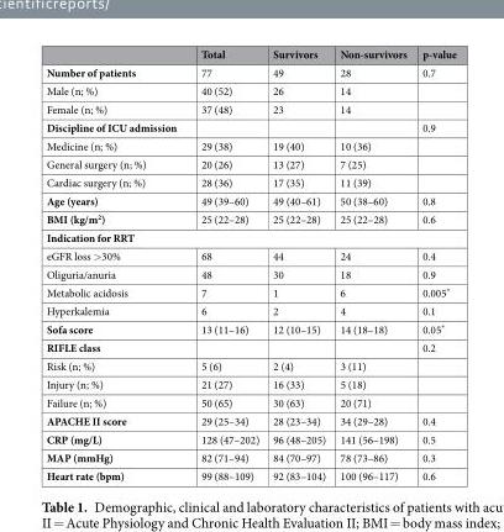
<table><thead><tr><td></td><td>Total</td><td>Survivors</td><td>Non-survivors</td><td>p-value</td></tr></thead><tbody><tr><td>Number of patients</td><td>77</td><td>49</td><td>28</td><td>0.7</td></tr><tr><td>Male (n; %)</td><td>40 (52)</td><td>26</td><td>14</td><td></td></tr><tr><td>Female (n; %)</td><td>37 (48)</td><td>23</td><td>14</td><td></td></tr><tr><td>Discipline of ICU admission</td><td></td><td></td><td></td><td>0.9</td></tr><tr><td>Medicine (n; %)</td><td>29 (38)</td><td>19 (40)</td><td>10 (36)</td><td></td></tr><tr><td>General surgery (n; %)</td><td>20 (26)</td><td>13 (27)</td><td>7 (25)</td><td></td></tr><tr><td>Cardiac surgery (n; %)</td><td>28 (36)</td><td>17 (35)</td><td>11 (39)</td><td></td></tr><tr><td>Age (years)</td><td>49 (39–60)</td><td>49 (40–61)</td><td>50 (38–60)</td><td>0.8</td></tr><tr><td>BMI (kg/m<sup>2</sup>)</td><td>25 (22–28)</td><td>25 (22–28)</td><td>25 (22–28)</td><td>0.6</td></tr><tr><td colspan="5">Indication for RRT</td></tr><tr><td>eGFR loss &gt;30%</td><td>68</td><td>44</td><td>24</td><td>0.4</td></tr><tr><td>Oliguria/anuria</td><td>48</td><td>30</td><td>18</td><td>0.9</td></tr><tr><td>Metabolic acidosis</td><td>7</td><td>1</td><td>6</td><td>0.005*</td></tr><tr><td>Hyperkalemia</td><td>6</td><td>2</td><td>4</td><td>0.1</td></tr><tr><td>Sofa score</td><td>13 (11–16)</td><td>12 (10–15)</td><td>14 (18–18)</td><td>0.05*</td></tr><tr><td>RIFLE class</td><td></td><td></td><td></td><td>0.2</td></tr><tr><td>Risk (n; %)</td><td>5 (6)</td><td>2 (4)</td><td>3 (11)</td><td></td></tr><tr><td>Injury (n; %)</td><td>21 (27)</td><td>16 (33)</td><td>5 (18)</td><td></td></tr><tr><td>Failure (n; %)</td><td>50 (65)</td><td>30 (63)</td><td>20 (71)</td><td></td></tr><tr><td>APACHE II score</td><td>29 (25–34)</td><td>28 (23–34)</td><td>34 (29–28)</td><td>0.4</td></tr><tr><td>CRP (mg/L)</td><td>128 (47–202)</td><td>96 (48–205)</td><td>141 (56–198)</td><td>0.5</td></tr><tr><td>MAP (mmHg)</td><td>82 (71–94)</td><td>84 (70–97)</td><td>78 (73–86)</td><td>0.3</td></tr><tr><td>Heart rate (bpm)</td><td>99 (88–109)</td><td>92 (83–104)</td><td>100 (96–117)</td><td>0.6</td></tr></tbody></table>